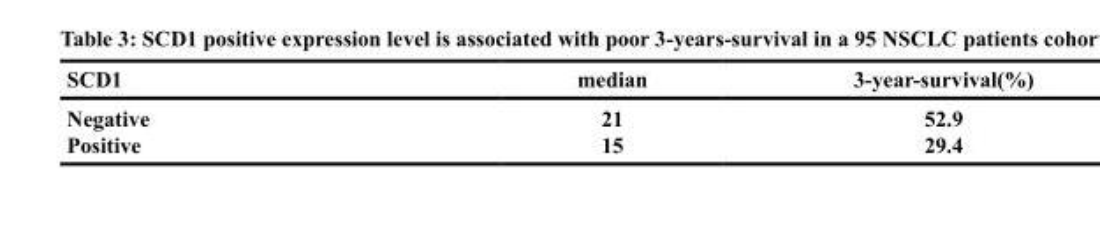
<table><thead><tr><td>SCD1</td><td>median</td><td>3-year-survival(%)</td></tr></thead><tbody><tr><td>Negative</td><td>21</td><td>52.9</td></tr><tr><td>Positive</td><td>15</td><td>29.4</td></tr></tbody></table>